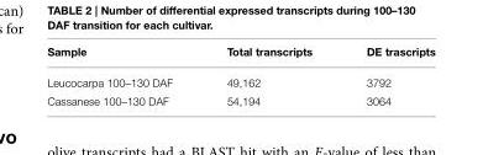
<table><thead><tr><td>Sample</td><td>Total transcripts</td><td>DE trascripts</td></tr></thead><tbody><tr><td>Leucocarpa 100–130 DAF</td><td>49,162</td><td>3792</td></tr><tr><td>Cassanese 100–130 DAF</td><td>54,194</td><td>3064</td></tr></tbody></table>